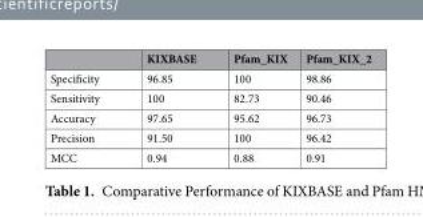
<table><thead><tr><td></td><td>KIXBASE</td><td>Pfam_KIX</td><td>Pfam_KIX_2</td></tr></thead><tbody><tr><td>Specificity</td><td>96.85</td><td>100</td><td>98.86</td></tr><tr><td>Sensitivity</td><td>100</td><td>82.73</td><td>90.46</td></tr><tr><td>Accuracy</td><td>97.65</td><td>95.62</td><td>96.73</td></tr><tr><td>Precision</td><td>91.50</td><td>100</td><td>96.42</td></tr><tr><td>MCC</td><td>0.94</td><td>0.88</td><td>0.91</td></tr></tbody></table>